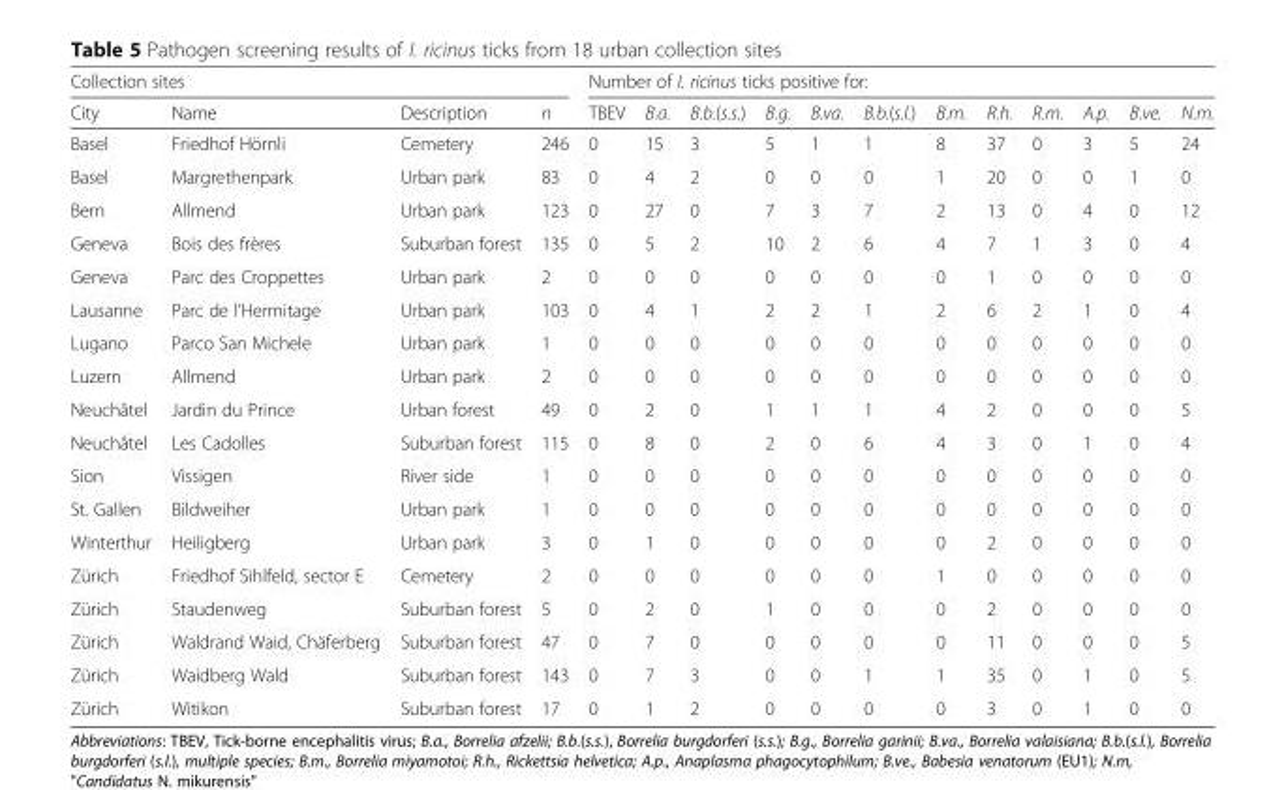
<table><thead><tr><td colspan="4">Collection sites</td><td colspan="12">Number of I. ricinus ticks positive for:</td></tr><tr><td>City</td><td>Name</td><td>Description</td><td>n</td><td>TBEV</td><td>B.a.</td><td>B.b.(s.s.)</td><td>B.g.</td><td>B.va.</td><td>B.b.(s.l.)</td><td>B.m.</td><td>R.h.</td><td>R.m.</td><td>A.p.</td><td>B.ve.</td><td>N.m.</td></tr></thead><tbody><tr><td>Basel</td><td>Friedhof Hörnli</td><td>Cemetery</td><td>246</td><td>0</td><td>15</td><td>3</td><td>5</td><td>1</td><td>1</td><td>8</td><td>37</td><td>0</td><td>3</td><td>5</td><td>24</td></tr><tr><td>Basel</td><td>Margrethenpark</td><td>Urban park</td><td>83</td><td>0</td><td>4</td><td>2</td><td>0</td><td>0</td><td>0</td><td>1</td><td>20</td><td>0</td><td>0</td><td>1</td><td>0</td></tr><tr><td>Bern</td><td>Allmend</td><td>Urban park</td><td>123</td><td>0</td><td>27</td><td>0</td><td>7</td><td>3</td><td>7</td><td>2</td><td>13</td><td>0</td><td>4</td><td>0</td><td>12</td></tr><tr><td>Geneva</td><td>Bois des frères</td><td>Suburban forest</td><td>135</td><td>0</td><td>5</td><td>2</td><td>10</td><td>2</td><td>6</td><td>4</td><td>7</td><td>1</td><td>3</td><td>0</td><td>4</td></tr><tr><td>Geneva</td><td>Parc des Croppettes</td><td>Urban park</td><td>2</td><td>0</td><td>0</td><td>0</td><td>0</td><td>0</td><td>0</td><td>0</td><td>1</td><td>0</td><td>0</td><td>0</td><td>0</td></tr><tr><td>Lausanne</td><td>Parc de l’Hermitage</td><td>Urban park</td><td>103</td><td>0</td><td>4</td><td>1</td><td>2</td><td>2</td><td>1</td><td>2</td><td>6</td><td>2</td><td>1</td><td>0</td><td>4</td></tr><tr><td>Lugano</td><td>Parco San Michele</td><td>Urban park</td><td>1</td><td>0</td><td>0</td><td>0</td><td>0</td><td>0</td><td>0</td><td>0</td><td>0</td><td>0</td><td>0</td><td>0</td><td>0</td></tr><tr><td>Luzern</td><td>Allmend</td><td>Urban park</td><td>2</td><td>0</td><td>0</td><td>0</td><td>0</td><td>0</td><td>0</td><td>0</td><td>0</td><td>0</td><td>0</td><td>0</td><td>0</td></tr><tr><td>Neuchâtel</td><td>Jardin du Prince</td><td>Urban forest</td><td>49</td><td>0</td><td>2</td><td>0</td><td>1</td><td>1</td><td>1</td><td>4</td><td>2</td><td>0</td><td>0</td><td>0</td><td>5</td></tr><tr><td>Neuchâtel</td><td>Les Cadolles</td><td>Suburban forest</td><td>115</td><td>0</td><td>8</td><td>0</td><td>2</td><td>0</td><td>6</td><td>4</td><td>3</td><td>0</td><td>1</td><td>0</td><td>4</td></tr><tr><td>Sion</td><td>Vissigen</td><td>River side</td><td>1</td><td>0</td><td>0</td><td>0</td><td>0</td><td>0</td><td>0</td><td>0</td><td>0</td><td>0</td><td>0</td><td>0</td><td>0</td></tr><tr><td>St. Gallen</td><td>Bildweiher</td><td>Urban park</td><td>1</td><td>0</td><td>0</td><td>0</td><td>0</td><td>0</td><td>0</td><td>0</td><td>0</td><td>0</td><td>0</td><td>0</td><td>0</td></tr><tr><td>Winterthur</td><td>Heiligberg</td><td>Urban park</td><td>3</td><td>0</td><td>1</td><td>0</td><td>0</td><td>0</td><td>0</td><td>0</td><td>2</td><td>0</td><td>0</td><td>0</td><td>0</td></tr><tr><td>Zürich</td><td>Friedhof Sihlfeld, sector E</td><td>Cemetery</td><td>2</td><td>0</td><td>0</td><td>0</td><td>0</td><td>0</td><td>0</td><td>1</td><td>0</td><td>0</td><td>0</td><td>0</td><td>0</td></tr><tr><td>Zürich</td><td>Staudenweg</td><td>Suburban forest</td><td>5</td><td>0</td><td>2</td><td>0</td><td>1</td><td>0</td><td>0</td><td>0</td><td>2</td><td>0</td><td>0</td><td>0</td><td>0</td></tr><tr><td>Zürich</td><td>Waldrand Waid, Chäferberg</td><td>Suburban forest</td><td>47</td><td>0</td><td>7</td><td>0</td><td>0</td><td>0</td><td>0</td><td>0</td><td>11</td><td>0</td><td>0</td><td>0</td><td>5</td></tr><tr><td>Zürich</td><td>Waidberg Wald</td><td>Suburban forest</td><td>143</td><td>0</td><td>7</td><td>3</td><td>0</td><td>0</td><td>1</td><td>1</td><td>35</td><td>0</td><td>1</td><td>0</td><td>5</td></tr><tr><td>Zürich</td><td>Witikon</td><td>Suburban forest</td><td>17</td><td>0</td><td>1</td><td>2</td><td>0</td><td>0</td><td>0</td><td>0</td><td>3</td><td>0</td><td>1</td><td>0</td><td>0</td></tr></tbody></table>